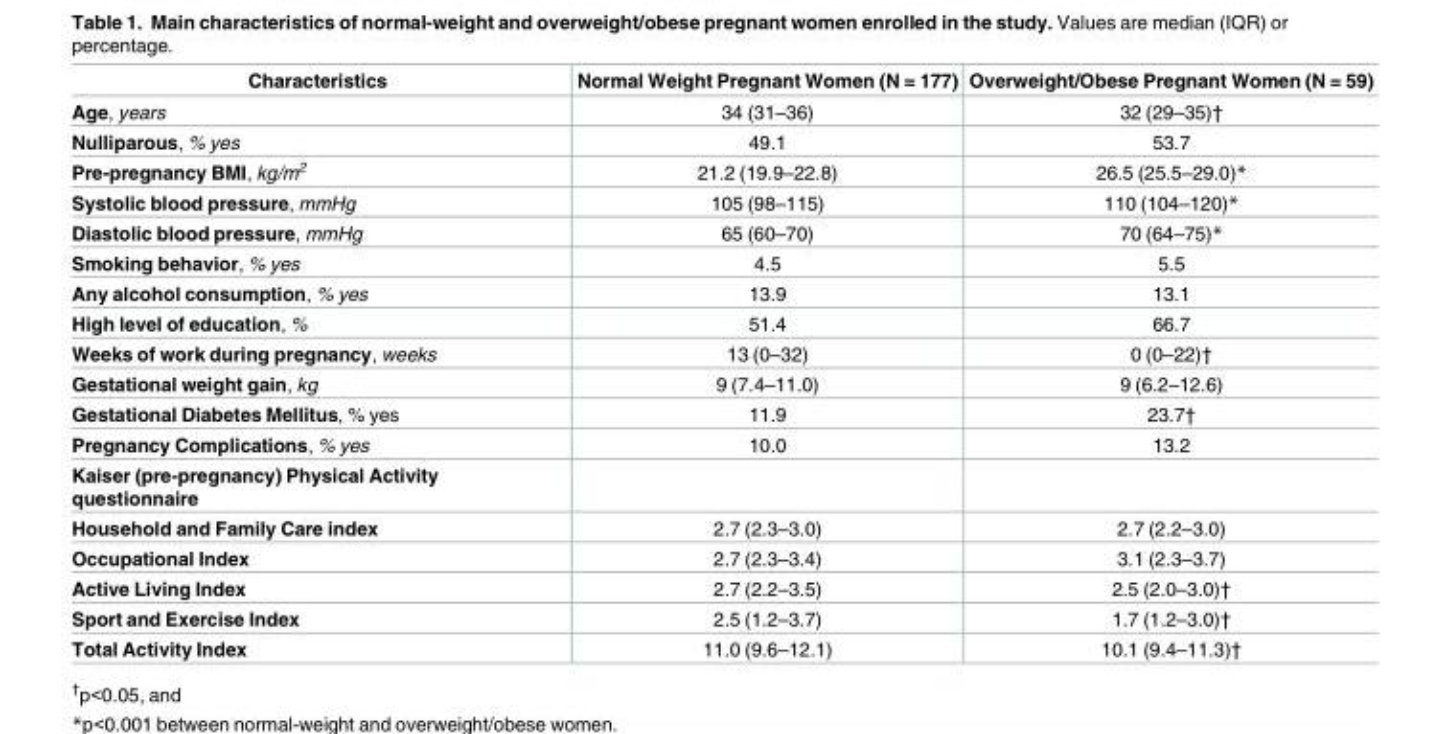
<table><thead><tr><td>Characteristics</td><td>Normal Weight Pregnant Women (N = 177)</td><td>Overweight/Obese Pregnant Women (N = 59)</td></tr></thead><tbody><tr><td>Age, years</td><td>34 (31–36)</td><td>32 (29–35)†</td></tr><tr><td>Nulliparous, % yes</td><td>49.1</td><td>53.7</td></tr><tr><td>Pre-pregnancy BMI, kg/m<sup>2</sup></td><td>21.2 (19.9–22.8)</td><td>26.5 (25.5–29.0)*</td></tr><tr><td>Systolic blood pressure, mmHg</td><td>105 (98–115)</td><td>110 (104–120)*</td></tr><tr><td>Diastolic blood pressure, mmHg</td><td>65 (60–70)</td><td>70 (64–75)*</td></tr><tr><td>Smoking behavior, % yes</td><td>4.5</td><td>5.5</td></tr><tr><td>Any alcohol consumption, % yes</td><td>13.9</td><td>13.1</td></tr><tr><td>High level of education, %</td><td>51.4</td><td>66.7</td></tr><tr><td>Weeks of work during pregnancy, weeks</td><td>13 (0–32)</td><td>0 (0–22)†</td></tr><tr><td>Gestational weight gain, kg</td><td>9 (7.4–11.0)</td><td>9 (6.2–12.6)</td></tr><tr><td>Gestational Diabetes Mellitus, % yes</td><td>11.9</td><td>23.7†</td></tr><tr><td>Pregnancy Complications, % yes</td><td>10.0</td><td>13.2</td></tr><tr><td colspan="3">Kaiser (pre-pregnancy) Physical Activity questionnaire</td></tr><tr><td>Household and Family Care index</td><td>2.7 (2.3–3.0)</td><td>2.7 (2.2–3.0)</td></tr><tr><td>Occupational Index</td><td>2.7 (2.3–3.4)</td><td>3.1 (2.3–3.7)</td></tr><tr><td>Active Living Index</td><td>2.7 (2.2–3.5)</td><td>2.5 (2.0–3.0)†</td></tr><tr><td>Sport and Exercise Index</td><td>2.5 (1.2–3.7)</td><td>1.7 (1.2–3.0)†</td></tr><tr><td>Total Activity Index</td><td>11.0 (9.6–12.1)</td><td>10.1 (9.4–11.3)†</td></tr></tbody></table>